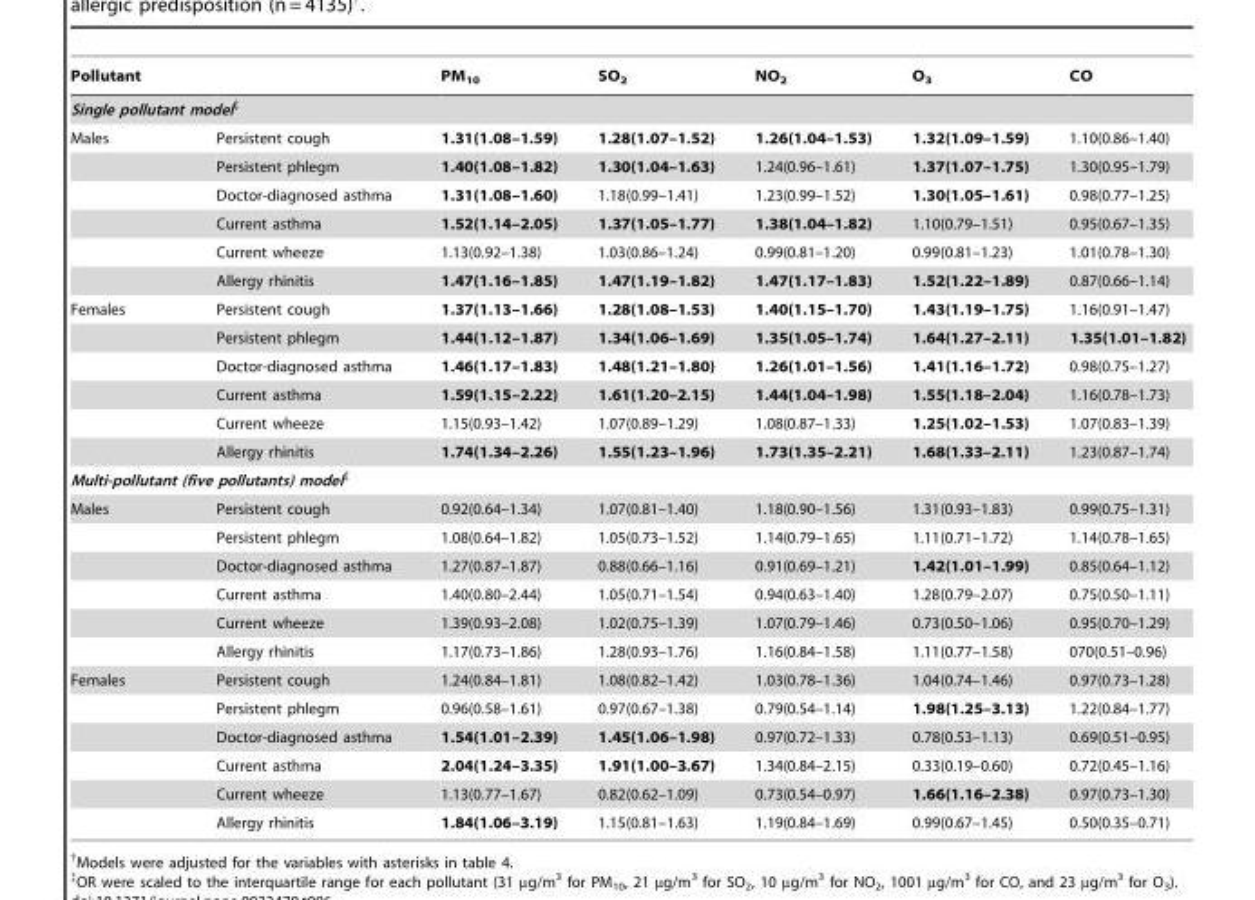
<table><thead><tr><td>Pollutant</td><td></td><td>PM<sub>10</sub></td><td>SO<sub>2</sub></td><td>NO<sub>2</sub></td><td>O<sub>3</sub></td><td>CO</td></tr></thead><tbody><tr><td colspan="7">Single pollutant model‡</td></tr><tr><td rowspan="6">Males</td><td>Persistent cough</td><td>1.31(1.08–1.59)</td><td>1.28(1.07–1.52)</td><td>1.26(1.04–1.53)</td><td>1.32(1.09–1.59)</td><td>1.10(0.86–1.40)</td></tr><tr><td>Persistent phlegm</td><td>1.40(1.08–1.82)</td><td>1.30(1.04–1.63)</td><td>1.24(0.96–1.61)</td><td>1.37(1.07–1.75)</td><td>1.30(0.95–1.79)</td></tr><tr><td>Doctor-diagnosed asthma</td><td>1.31(1.08–1.60)</td><td>1.18(0.99–1.41)</td><td>1.23(0.99–1.52)</td><td>1.30(1.05–1.61)</td><td>0.98(0.77–1.25)</td></tr><tr><td>Current asthma</td><td>1.52(1.14–2.05)</td><td>1.37(1.05–1.77)</td><td>1.38(1.04–1.82)</td><td>1.10(0.79–1.51)</td><td>0.95(0.67–1.35)</td></tr><tr><td>Current wheeze</td><td>1.13(0.92–1.38)</td><td>1.03(0.86–1.24)</td><td>0.99(0.81–1.20)</td><td>0.99(0.81–1.23)</td><td>1.01(0.78–1.30)</td></tr><tr><td>Allergy rhinitis</td><td>1.47(1.16–1.85)</td><td>1.47(1.19–1.82)</td><td>1.47(1.17–1.83)</td><td>1.52(1.22–1.89)</td><td>0.87(0.66–1.14)</td></tr><tr><td rowspan="6">Females</td><td>Persistent cough</td><td>1.37(1.13–1.66)</td><td>1.28(1.08–1.53)</td><td>1.40(1.15–1.70)</td><td>1.43(1.19–1.75)</td><td>1.16(0.91–1.47)</td></tr><tr><td>Persistent phlegm</td><td>1.44(1.12–1.87)</td><td>1.34(1.06–1.69)</td><td>1.35(1.05–1.74)</td><td>1.64(1.27–2.11)</td><td>1.35(1.01–1.82)</td></tr><tr><td>Doctor-diagnosed asthma</td><td>1.46(1.17–1.83)</td><td>1.48(1.21–1.80)</td><td>1.26(1.01–1.56)</td><td>1.41(1.16–1.72)</td><td>0.98(0.75–1.27)</td></tr><tr><td>Current asthma</td><td>1.59(1.15–2.22)</td><td>1.61(1.20–2.15)</td><td>1.44(1.04–1.98)</td><td>1.55(1.18–2.04)</td><td>1.16(0.78–1.73)</td></tr><tr><td>Current wheeze</td><td>1.15(0.93–1.42)</td><td>1.07(0.89–1.29)</td><td>1.08(0.87–1.33)</td><td>1.25(1.02–1.53)</td><td>1.07(0.83–1.39)</td></tr><tr><td>Allergy rhinitis</td><td>1.74(1.34–2.26)</td><td>1.55(1.23–1.96)</td><td>1.73(1.35–2.21)</td><td>1.68(1.33–2.11)</td><td>1.23(0.87–1.74)</td></tr><tr><td colspan="7">Multi-pollutant (five pollutants) model‡</td></tr><tr><td rowspan="6">Males</td><td>Persistent cough</td><td>0.92(0.64–1.34)</td><td>1.07(0.81–1.40)</td><td>1.18(0.90–1.56)</td><td>1.31(0.93–1.83)</td><td>0.99(0.75–1.31)</td></tr><tr><td>Persistent phlegm</td><td>1.08(0.64–1.82)</td><td>1.05(0.73–1.52)</td><td>1.14(0.79–1.65)</td><td>1.11(0.71–1.72)</td><td>1.14(0.78–1.65)</td></tr><tr><td>Doctor-diagnosed asthma</td><td>1.27(0.87–1.87)</td><td>0.88(0.66–1.16)</td><td>0.91(0.69–1.21)</td><td>1.42(1.01–1.99)</td><td>0.85(0.64–1.12)</td></tr><tr><td>Current asthma</td><td>1.40(0.80–2.44)</td><td>1.05(0.71–1.54)</td><td>0.94(0.63–1.40)</td><td>1.28(0.79–2.07)</td><td>0.75(0.50–1.11)</td></tr><tr><td>Current wheeze</td><td>1.39(0.93–2.08)</td><td>1.02(0.75–1.39)</td><td>1.07(0.79–1.46)</td><td>0.73(0.50–1.06)</td><td>0.95(0.70–1.29)</td></tr><tr><td>Allergy rhinitis</td><td>1.17(0.73–1.86)</td><td>1.28(0.93–1.76)</td><td>1.16(0.84–1.58)</td><td>1.11(0.77–1.58)</td><td>070(0.51–0.96)</td></tr><tr><td rowspan="6">Females</td><td>Persistent cough</td><td>1.24(0.84–1.81)</td><td>1.08(0.82–1.42)</td><td>1.03(0.78–1.36)</td><td>1.04(0.74–1.46)</td><td>0.97(0.73–1.28)</td></tr><tr><td>Persistent phlegm</td><td>0.96(0.58–1.61)</td><td>0.97(0.67–1.38)</td><td>0.79(0.54–1.14)</td><td>1.98(1.25–3.13)</td><td>1.22(0.84–1.77)</td></tr><tr><td>Doctor-diagnosed asthma</td><td>1.54(1.01–2.39)</td><td>1.45(1.06–1.98)</td><td>0.97(0.72–1.33)</td><td>0.78(0.53–1.13)</td><td>0.69(0.51–0.95)</td></tr><tr><td>Current asthma</td><td>2.04(1.24–3.35)</td><td>1.91(1.00–3.67)</td><td>1.34(0.84–2.15)</td><td>0.33(0.19–0.60)</td><td>0.72(0.45–1.16)</td></tr><tr><td>Current wheeze</td><td>1.13(0.77–1.67)</td><td>0.82(0.62–1.09)</td><td>0.73(0.54–0.97)</td><td>1.66(1.16–2.38)</td><td>0.97(0.73–1.30)</td></tr><tr><td>Allergy rhinitis</td><td>1.84(1.06–3.19)</td><td>1.15(0.81–1.63)</td><td>1.19(0.84–1.69)</td><td>0.99(0.67–1.45)</td><td>0.50(0.35–0.71)</td></tr></tbody></table>